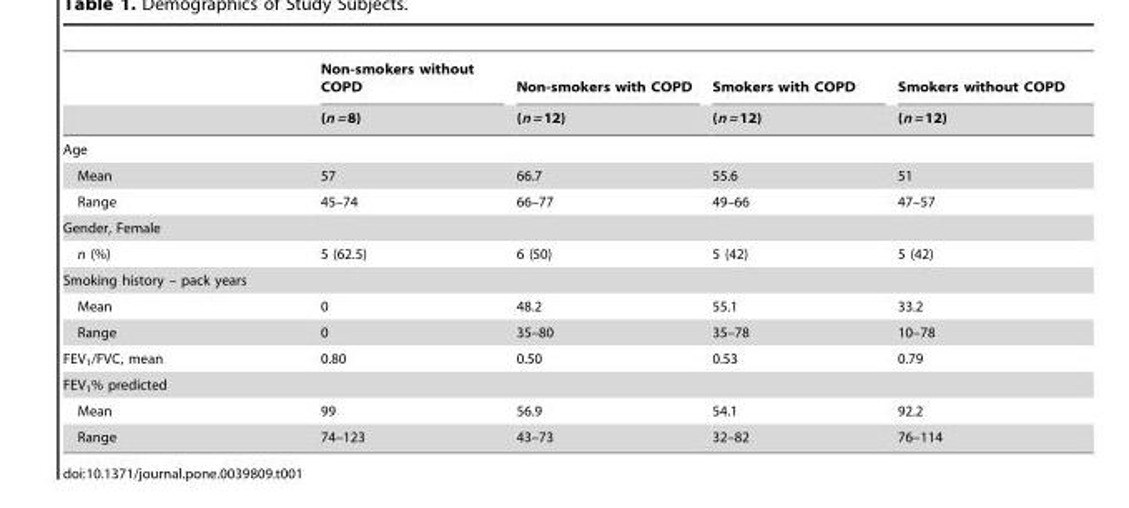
<table><thead><tr><td rowspan="2"></td><td rowspan="2">Non-smokers without COPD (n = 8)</td><td rowspan="2">Non-smokers with COPD (n = 12)</td><td rowspan="2">Smokers with COPD (n = 12)</td><td rowspan="2">Smokers without COPD (n = 12)</td></tr><tr></tr></thead><tbody><tr><td colspan="5">Age</td></tr><tr><td>Mean</td><td>57</td><td>66.7</td><td>55.6</td><td>51</td></tr><tr><td>Range</td><td>45–74</td><td>66–77</td><td>49–66</td><td>47–57</td></tr><tr><td colspan="5">Gender, Female</td></tr><tr><td>n (%)</td><td>5 (62.5)</td><td>6 (50)</td><td>5 (42)</td><td>5 (42)</td></tr><tr><td colspan="5">Smoking history – pack years</td></tr><tr><td>Mean</td><td>0</td><td>48.2</td><td>55.1</td><td>33.2</td></tr><tr><td>Range</td><td>0</td><td>35–80</td><td>35–78</td><td>10–78</td></tr><tr><td>FEV<sub>1</sub>/FVC, mean</td><td>0.80</td><td>0.50</td><td>0.53</td><td>0.79</td></tr><tr><td colspan="5">FEV<sub>1</sub>% predicted</td></tr><tr><td>Mean</td><td>99</td><td>56.9</td><td>54.1</td><td>92.2</td></tr><tr><td>Range</td><td>74–123</td><td>43–73</td><td>32–82</td><td>76–114</td></tr></tbody></table>